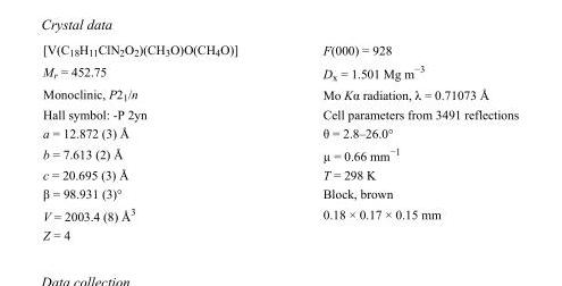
<table><tbody><tr><td>[V(C<sub>18</sub>H<sub>11</sub>ClN<sub>2</sub>O<sub>2</sub>)(CH<sub>3</sub>O)O(CH<sub>4</sub>O)]</td><td>F(000) = 928</td></tr><tr><td>M<sub>r</sub> = 452.75</td><td>D<sub>x</sub> = 1.501 Mg m<sup>−3</sup></td></tr><tr><td>Monoclinic, P2<sub>1</sub>/n</td><td>Mo Kα radiation, λ = 0.71073 Å</td></tr><tr><td>Hall symbol: -P 2yn</td><td>Cell parameters from 3491 reflections</td></tr><tr><td>a = 12.872 (3) Å</td><td>θ = 2.8–26.0°</td></tr><tr><td>b = 7.613 (2) Å</td><td>µ = 0.66 mm<sup>−1</sup></td></tr><tr><td>c = 20.695 (3) Å</td><td>T = 298 K</td></tr><tr><td>β = 98.931 (3)°</td><td>Block, brown</td></tr><tr><td>V = 2003.4 (8) Å<sup>3</sup></td><td>0.18 × 0.17 × 0.15 mm</td></tr><tr><td>Z = 4</td><td></td></tr></tbody></table>